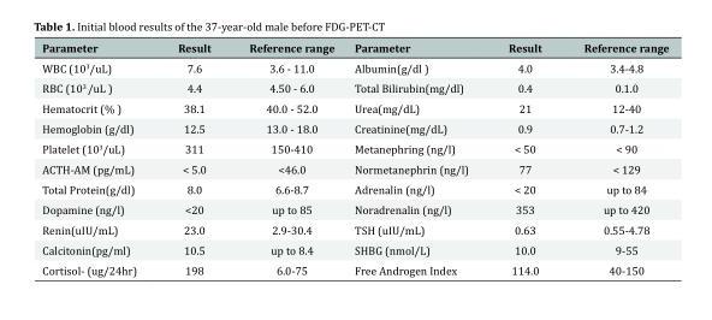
<table><thead><tr><td>Parameter</td><td>Result</td><td>Reference range</td><td>Parameter</td><td>Result</td><td>Reference range</td></tr></thead><tbody><tr><td>WBC (10<sup>3</sup>/uL)</td><td>7.6</td><td>3.6 - 11.0</td><td>Albumin(g/dl )</td><td>4.0</td><td>3.4-4.8</td></tr><tr><td>RBC (10<sup>3</sup> /uL )</td><td>4.4</td><td>4.50 - 6.0</td><td>Total Bilirubin(mg/dl)</td><td>0.4</td><td>0.1.0</td></tr><tr><td>Hematocrit (% )</td><td>38.1</td><td>40.0 - 52.0</td><td>Urea(mg/dL)</td><td>21</td><td>12-40</td></tr><tr><td>Hemoglobin (g/dl)</td><td>12.5</td><td>13.0 - 18.0</td><td>Creatinine(mg/dL)</td><td>0.9</td><td>0.7-1.2</td></tr><tr><td>Platelet (10<sup>3</sup>/uL)</td><td>311</td><td>150-410</td><td>Metanephring (ng/l)</td><td>&lt; 50</td><td>&lt; 90</td></tr><tr><td>ACTH-AM (pg/mL)</td><td>&lt; 5.0</td><td>&lt;46.0</td><td>Normetanephrin (ng/l)</td><td>77</td><td>&lt; 129</td></tr><tr><td>Total Protein(g/dl)</td><td>8.0</td><td>6.6-8.7</td><td>Adrenalin (ng/l)</td><td>&lt; 20</td><td>up to 84</td></tr><tr><td>Dopamine (ng/l)</td><td>&lt;20</td><td>up to 85</td><td>Noradrenalin (ng/l)</td><td>353</td><td>up to 420</td></tr><tr><td>Renin(uIU/mL)</td><td>23.0</td><td>2.9-30.4</td><td>TSH (uIU/mL)</td><td>0.63</td><td>0.55-4.78</td></tr><tr><td>Calcitonin(pg/ml)</td><td>10.5</td><td>up to 8.4</td><td>SHBG (nmol/L)</td><td>10.0</td><td>9-55</td></tr><tr><td>Cortisol- (ug/24hr)</td><td>198</td><td>6.0-75</td><td>Free Androgen Index</td><td>114.0</td><td>40-150</td></tr></tbody></table>